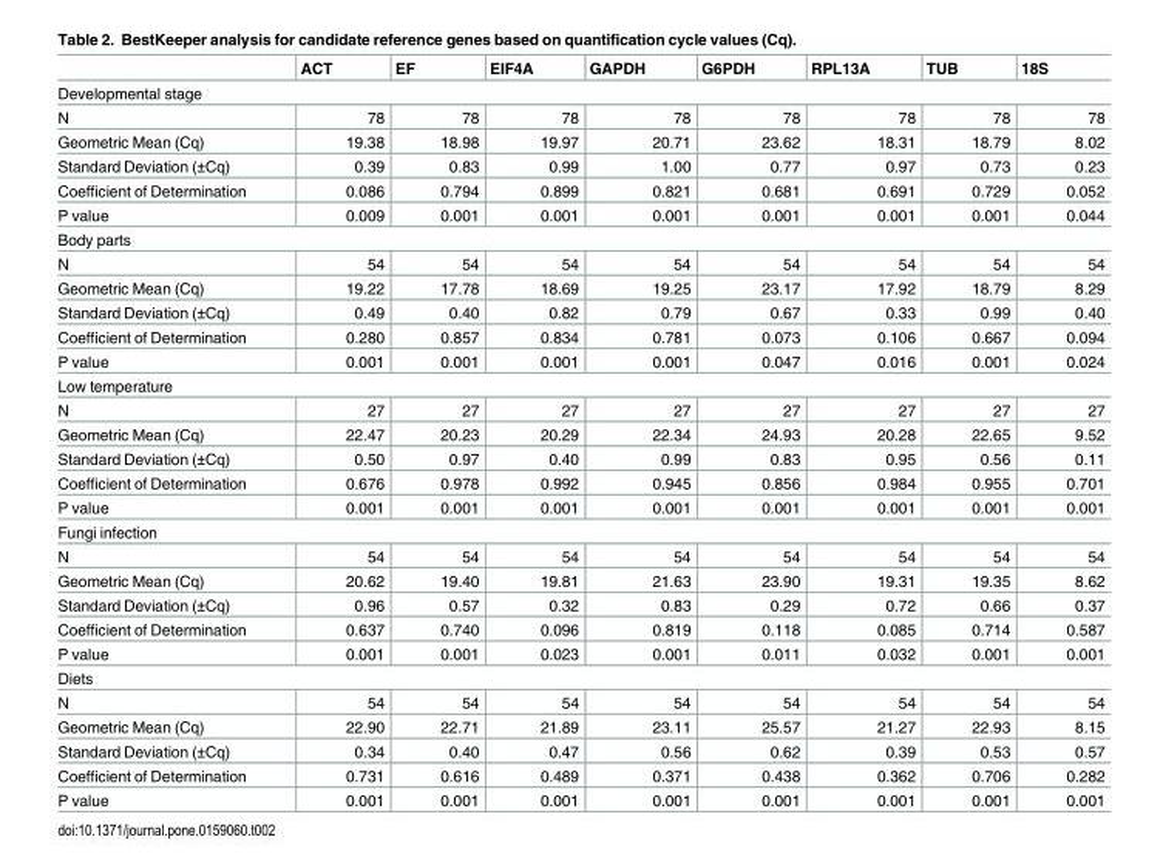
<table><thead><tr><td></td><td>ACT</td><td>EF</td><td>EIF4A</td><td>GAPDH</td><td>G6PDH</td><td>RPL13A</td><td>TUB</td><td>18S</td></tr></thead><tbody><tr><td colspan="9">Developmental stage</td></tr><tr><td>N</td><td>78</td><td>78</td><td>78</td><td>78</td><td>78</td><td>78</td><td>78</td><td>78</td></tr><tr><td>Geometric Mean (Cq)</td><td>19.38</td><td>18.98</td><td>19.97</td><td>20.71</td><td>23.62</td><td>18.31</td><td>18.79</td><td>8.02</td></tr><tr><td>Standard Deviation (±Cq)</td><td>0.39</td><td>0.83</td><td>0.99</td><td>1.00</td><td>0.77</td><td>0.97</td><td>0.73</td><td>0.23</td></tr><tr><td>Coefficient of Determination</td><td>0.086</td><td>0.794</td><td>0.899</td><td>0.821</td><td>0.681</td><td>0.691</td><td>0.729</td><td>0.052</td></tr><tr><td>P value</td><td>0.009</td><td>0.001</td><td>0.001</td><td>0.001</td><td>0.001</td><td>0.001</td><td>0.001</td><td>0.044</td></tr><tr><td colspan="9">Body parts</td></tr><tr><td>N</td><td>54</td><td>54</td><td>54</td><td>54</td><td>54</td><td>54</td><td>54</td><td>54</td></tr><tr><td>Geometric Mean (Cq)</td><td>19.22</td><td>17.78</td><td>18.69</td><td>19.25</td><td>23.17</td><td>17.92</td><td>18.79</td><td>8.29</td></tr><tr><td>Standard Deviation (±Cq)</td><td>0.49</td><td>0.40</td><td>0.82</td><td>0.79</td><td>0.67</td><td>0.33</td><td>0.99</td><td>0.40</td></tr><tr><td>Coefficient of Determination</td><td>0.280</td><td>0.857</td><td>0.834</td><td>0.781</td><td>0.073</td><td>0.106</td><td>0.667</td><td>0.094</td></tr><tr><td>P value</td><td>0.001</td><td>0.001</td><td>0.001</td><td>0.001</td><td>0.047</td><td>0.016</td><td>0.001</td><td>0.024</td></tr><tr><td colspan="9">Low temperature</td></tr><tr><td>N</td><td>27</td><td>27</td><td>27</td><td>27</td><td>27</td><td>27</td><td>27</td><td>27</td></tr><tr><td>Geometric Mean (Cq)</td><td>22.47</td><td>20.23</td><td>20.29</td><td>22.34</td><td>24.93</td><td>20.28</td><td>22.65</td><td>9.52</td></tr><tr><td>Standard Deviation (±Cq)</td><td>0.50</td><td>0.97</td><td>0.40</td><td>0.99</td><td>0.83</td><td>0.95</td><td>0.56</td><td>0.11</td></tr><tr><td>Coefficient of Determination</td><td>0.676</td><td>0.978</td><td>0.992</td><td>0.945</td><td>0.856</td><td>0.984</td><td>0.955</td><td>0.701</td></tr><tr><td>P value</td><td>0.001</td><td>0.001</td><td>0.001</td><td>0.001</td><td>0.001</td><td>0.001</td><td>0.001</td><td>0.001</td></tr><tr><td colspan="9">Fungi infection</td></tr><tr><td>N</td><td>54</td><td>54</td><td>54</td><td>54</td><td>54</td><td>54</td><td>54</td><td>54</td></tr><tr><td>Geometric Mean (Cq)</td><td>20.62</td><td>19.40</td><td>19.81</td><td>21.63</td><td>23.90</td><td>19.31</td><td>19.35</td><td>8.62</td></tr><tr><td>Standard Deviation (±Cq)</td><td>0.96</td><td>0.57</td><td>0.32</td><td>0.83</td><td>0.29</td><td>0.72</td><td>0.66</td><td>0.37</td></tr><tr><td>Coefficient of Determination</td><td>0.637</td><td>0.740</td><td>0.096</td><td>0.819</td><td>0.118</td><td>0.085</td><td>0.714</td><td>0.587</td></tr><tr><td>P value</td><td>0.001</td><td>0.001</td><td>0.023</td><td>0.001</td><td>0.011</td><td>0.032</td><td>0.001</td><td>0.001</td></tr><tr><td colspan="9">Diets</td></tr><tr><td>N</td><td>54</td><td>54</td><td>54</td><td>54</td><td>54</td><td>54</td><td>54</td><td>54</td></tr><tr><td>Geometric Mean (Cq)</td><td>22.90</td><td>22.71</td><td>21.89</td><td>23.11</td><td>25.57</td><td>21.27</td><td>22.93</td><td>8.15</td></tr><tr><td>Standard Deviation (±Cq)</td><td>0.34</td><td>0.40</td><td>0.47</td><td>0.56</td><td>0.62</td><td>0.39</td><td>0.53</td><td>0.57</td></tr><tr><td>Coefficient of Determination</td><td>0.731</td><td>0.616</td><td>0.489</td><td>0.371</td><td>0.438</td><td>0.362</td><td>0.706</td><td>0.282</td></tr><tr><td>P value</td><td>0.001</td><td>0.001</td><td>0.001</td><td>0.001</td><td>0.001</td><td>0.001</td><td>0.001</td><td>0.001</td></tr></tbody></table>